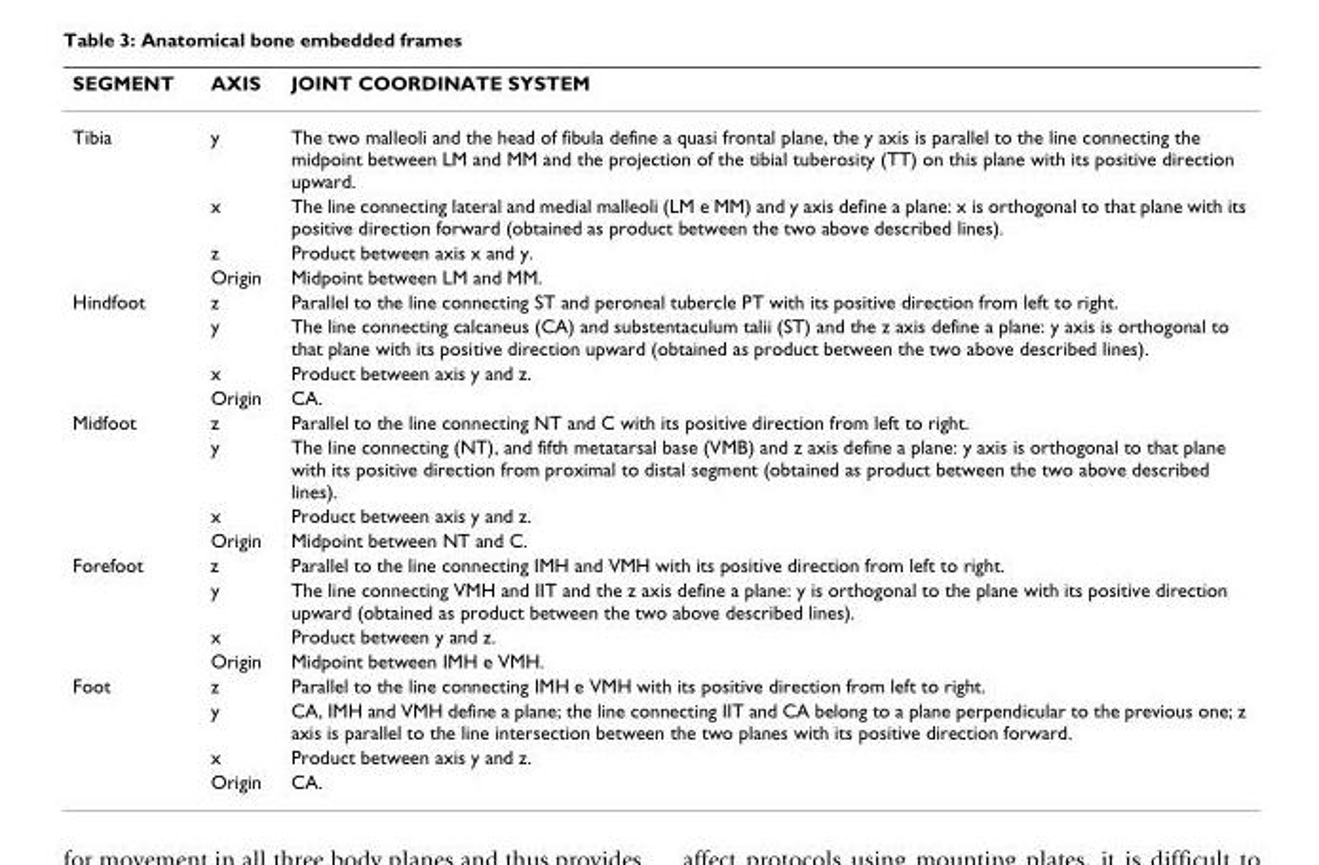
<table><thead><tr><td>SEGMENT</td><td>AXIS</td><td>JOINT COORDINATE SYSTEM</td></tr></thead><tbody><tr><td rowspan="4">Tibia</td><td>y</td><td>The two malleoli and the head of fibula define a quasi frontal plane, the y axis is parallel to the line connecting the midpoint between LM and MM and the projection of the tibial tuberosity (TT) on this plane with its positive direction upward.</td></tr><tr><td>x</td><td>The line connecting lateral and medial malleoli (LM e MM) and y axis define a plane: x is orthogonal to that plane with its positive direction forward (obtained as product between the two above described lines).</td></tr><tr><td>z</td><td>Product between axis x and y.</td></tr><tr><td>Origin</td><td>Midpoint between LM and MM.</td></tr><tr><td rowspan="4">Hindfoot</td><td>z</td><td>Parallel to the line connecting ST and peroneal tubercle PT with its positive direction from left to right.</td></tr><tr><td>y</td><td>The line connecting calcaneus (CA) and substentaculum talii (ST) and the z axis define a plane: y axis is orthogonal to that plane with its positive direction upward (obtained as product between the two above described lines).</td></tr><tr><td>x</td><td>Product between axis y and z.</td></tr><tr><td>Origin</td><td>CA.</td></tr><tr><td rowspan="4">Midfoot</td><td>z</td><td>Parallel to the line connecting NT and C with its positive direction from left to right.</td></tr><tr><td>y</td><td>The line connecting (NT), and fifth metatarsal base (VMB) and z axis define a plane: y axis is orthogonal to that plane with its positive direction from proximal to distal segment (obtained as product between the two above described lines).</td></tr><tr><td>x</td><td>Product between axis y and z.</td></tr><tr><td>Origin</td><td>Midpoint between NT and C.</td></tr><tr><td rowspan="4">Forefoot</td><td>z</td><td>Parallel to the line connecting IMH and VMH with its positive direction from left to right.</td></tr><tr><td>y</td><td>The line connecting VMH and IIT and the z axis define a plane: y is orthogonal to the plane with its positive direction upward (obtained as product between the two above described lines).</td></tr><tr><td>x</td><td>Product between y and z.</td></tr><tr><td>Origin</td><td>Midpoint between IMH e VMH.</td></tr><tr><td rowspan="4">Foot</td><td>z</td><td>Parallel to the line connecting IMH e VMH with its positive direction from left to right.</td></tr><tr><td>y</td><td>CA, IMH and VMH define a plane; the line connecting IIT and CA belong to a plane perpendicular to the previous one; z axis is parallel to the line intersection between the two planes with its positive direction forward.</td></tr><tr><td>x</td><td>Product between axis y and z.</td></tr><tr><td>Origin</td><td>CA.</td></tr></tbody></table>